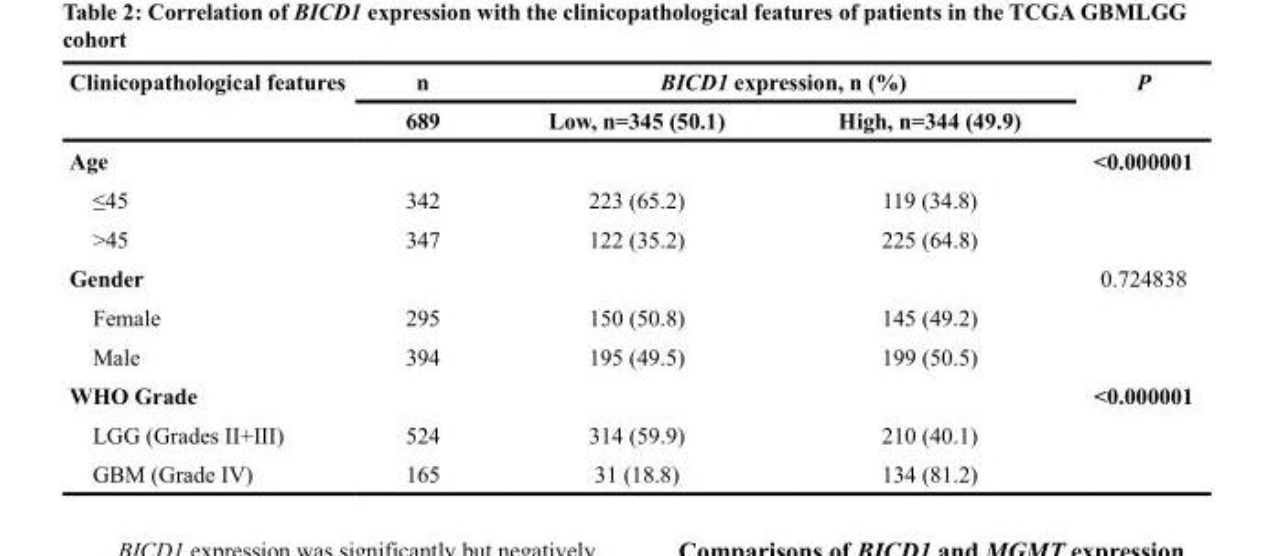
<table><thead><tr><td rowspan="2">Clinicopathological features</td><td rowspan="2">n 689</td><td colspan="2">BICD1 expression, n (%)</td><td rowspan="2">P</td></tr><tr><td>Low, n=345 (50.1)</td><td>High, n=344 (49.9)</td></tr></thead><tbody><tr><td>Age</td><td></td><td></td><td></td><td>&lt;0.000001</td></tr><tr><td>≤45</td><td>342</td><td>223 (65.2)</td><td>119 (34.8)</td><td></td></tr><tr><td>&gt;45</td><td>347</td><td>122 (35.2)</td><td>225 (64.8)</td><td></td></tr><tr><td>Gender</td><td></td><td></td><td></td><td>0.724838</td></tr><tr><td>Female</td><td>295</td><td>150 (50.8)</td><td>145 (49.2)</td><td></td></tr><tr><td>Male</td><td>394</td><td>195 (49.5)</td><td>199 (50.5)</td><td></td></tr><tr><td>WHO Grade</td><td></td><td></td><td></td><td>&lt;0.000001</td></tr><tr><td>LGG (Grades II+III)</td><td>524</td><td>314 (59.9)</td><td>210 (40.1)</td><td></td></tr><tr><td>GBM (Grade IV)</td><td>165</td><td>31 (18.8)</td><td>134 (81.2)</td><td></td></tr></tbody></table>